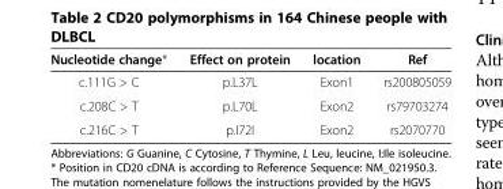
<table><thead><tr><td>Nucleotide change*</td><td>Effect on protein</td><td>location</td><td>Ref</td></tr></thead><tbody><tr><td>c.111G &gt; C</td><td>p.L37L</td><td>Exon1</td><td>rs200805059</td></tr><tr><td>c.208C &gt; T</td><td>p.L70L</td><td>Exon2</td><td>rs79703274</td></tr><tr><td>c.216C &gt; T</td><td>p.I72I</td><td>Exon2</td><td>rs2070770</td></tr></tbody></table>